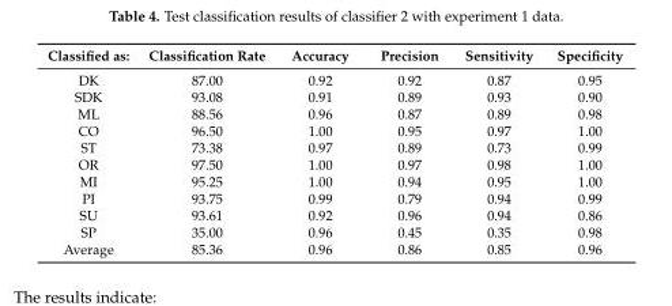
<table><thead><tr><td>Classified as:</td><td>Classification Rate</td><td>Accuracy</td><td>Precision</td><td>Sensitivity</td><td>Specificity</td></tr></thead><tbody><tr><td>DK</td><td>87.00</td><td>0.92</td><td>0.92</td><td>0.87</td><td>0.95</td></tr><tr><td>SDK</td><td>93.08</td><td>0.91</td><td>0.89</td><td>0.93</td><td>0.90</td></tr><tr><td>ML</td><td>88.56</td><td>0.96</td><td>0.87</td><td>0.89</td><td>0.98</td></tr><tr><td>CO</td><td>96.50</td><td>1.00</td><td>0.95</td><td>0.97</td><td>1.00</td></tr><tr><td>ST</td><td>73.38</td><td>0.97</td><td>0.89</td><td>0.73</td><td>0.99</td></tr><tr><td>OR</td><td>97.50</td><td>1.00</td><td>0.97</td><td>0.98</td><td>1.00</td></tr><tr><td>MI</td><td>95.25</td><td>1.00</td><td>0.94</td><td>0.95</td><td>1.00</td></tr><tr><td>PI</td><td>93.75</td><td>0.99</td><td>0.79</td><td>0.94</td><td>0.99</td></tr><tr><td>SU</td><td>93.61</td><td>0.92</td><td>0.96</td><td>0.94</td><td>0.86</td></tr><tr><td>SP</td><td>35.00</td><td>0.96</td><td>0.45</td><td>0.35</td><td>0.98</td></tr><tr><td>Average</td><td>85.36</td><td>0.96</td><td>0.86</td><td>0.85</td><td>0.96</td></tr></tbody></table>